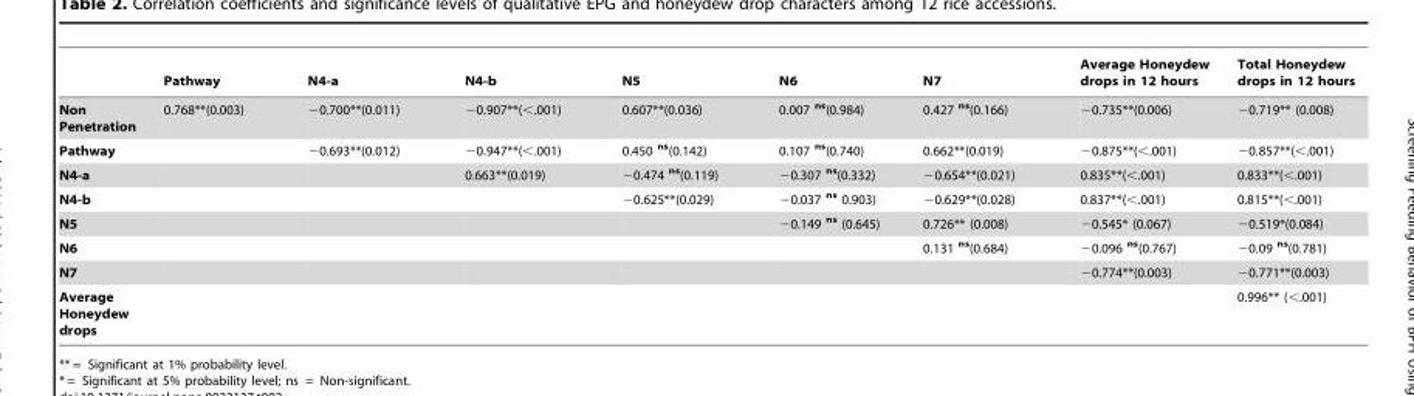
<table><thead><tr><td></td><td>Pathway</td><td>N4-a</td><td>N4-b</td><td>N5</td><td>N6</td><td>N7</td><td>Average Honeydew drops in 12 hours</td><td>Total Honeydew drops in 12 hours</td></tr></thead><tbody><tr><td>Non Penetration</td><td>0.768**(0.003)</td><td>−0.700**(0.011)</td><td>−0.907**(&lt;.001)</td><td>0.607**(0.036)</td><td>0.007 <sup>ns</sup>(0.984)</td><td>0.427 <sup>ns</sup>(0.166)</td><td>−0.735**(0.006)</td><td>−0.719** (0.008)</td></tr><tr><td>Pathway</td><td></td><td>−0.693**(0.012)</td><td>−0.947**(&lt;.001)</td><td>0.450 <sup>ns</sup>(0.142)</td><td>0.107 <sup>ns</sup>(0.740)</td><td>0.662**(0.019)</td><td>−0.875**(&lt;.001)</td><td>−0.857**(&lt;.001)</td></tr><tr><td>N4-a</td><td></td><td></td><td>0.663**(0.019)</td><td>−0.474 <sup>ns</sup>(0.119)</td><td>−0.307 <sup>ns</sup>(0.332)</td><td>−0.654**(0.021)</td><td>0.835**(&lt;.001)</td><td>0.833**(&lt;.001)</td></tr><tr><td>N4-b</td><td></td><td></td><td></td><td>−0.625**(0.029)</td><td>−0.037 <sup>ns</sup> 0.903)</td><td>−0.629**(0.028)</td><td>0.837**(&lt;.001)</td><td>0.815**(&lt;.001)</td></tr><tr><td>N5</td><td></td><td></td><td></td><td></td><td>−0.149 <sup>ns</sup> (0.645)</td><td>0.726** (0.008)</td><td>−0.545* (0.067)</td><td>−0.519*(0.084)</td></tr><tr><td>N6</td><td></td><td></td><td></td><td></td><td></td><td>0.131 <sup>ns</sup>(0.684)</td><td>−0.096 <sup>ns</sup>(0.767)</td><td>−0.09 <sup>ns</sup>(0.781)</td></tr><tr><td>N7</td><td></td><td></td><td></td><td></td><td></td><td></td><td>−0.774**(0.003)</td><td>−0.771**(0.003)</td></tr><tr><td>Average Honeydew drops</td><td></td><td></td><td></td><td></td><td></td><td></td><td></td><td>0.996** (&lt;.001)</td></tr></tbody></table>